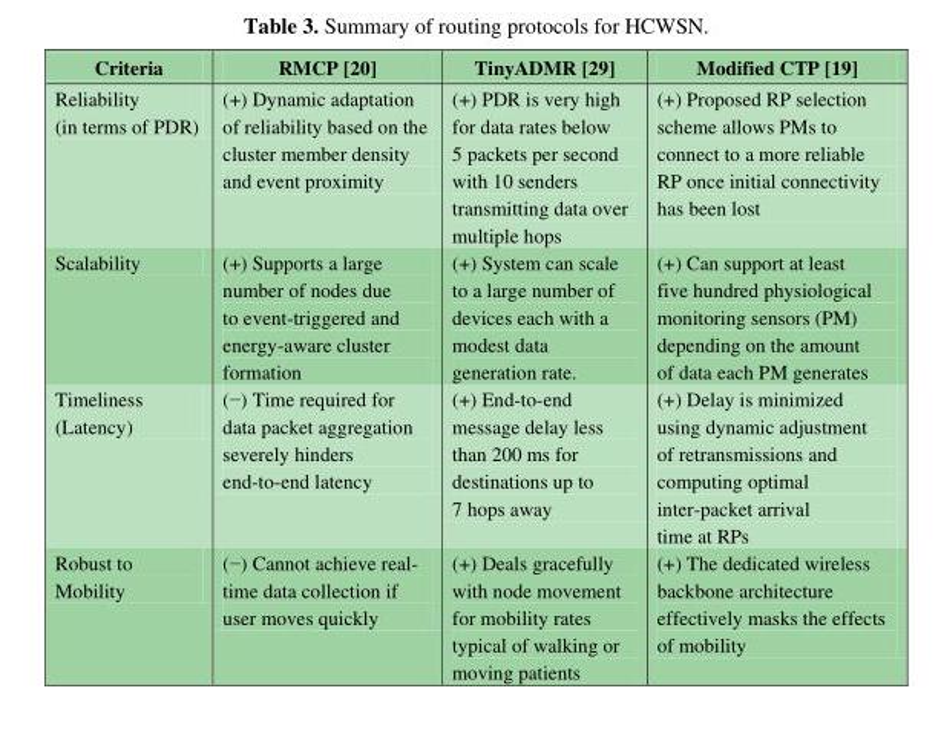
<table><thead><tr><td>Criteria</td><td>RMCP [20]</td><td>TinyADMR [29]</td><td>Modified CTP [19]</td></tr></thead><tbody><tr><td>Reliability (in terms of PDR)</td><td>(+) Dynamic adaptation of reliability based on the cluster member density and event proximity</td><td>(+) PDR is very high for data rates below 5 packets per second with 10 senders transmitting data over multiple hops</td><td>(+) Proposed RP selection scheme allows PMs to connect to a more reliable RP once initial connectivity has been lost</td></tr><tr><td>Scalability</td><td>(+) Supports a large number of nodes due to event-triggered and energy-aware cluster formation</td><td>(+) System can scale to a large number of devices each with a modest data generation rate.</td><td>(+) Can support at least five hundred physiological monitoring sensors (PM) depending on the amount of data each PM generates</td></tr><tr><td>Timeliness (Latency)</td><td>(−) Time required for data packet aggregation severely hinders end-to-end latency</td><td>(+) End-to-end message delay less than 200 ms for destinations up to 7 hops away</td><td>(+) Delay is minimized using dynamic adjustment of retransmissions and computing optimal inter-packet arrival time at RPs</td></tr><tr><td>Robust to Mobility</td><td>(−) Cannot achieve real- time data collection if user moves quickly</td><td>(+) Deals gracefully with node movement for mobility rates typical of walking or moving patients</td><td>(+) The dedicated wireless backbone architecture effectively masks the effects of mobility</td></tr></tbody></table>